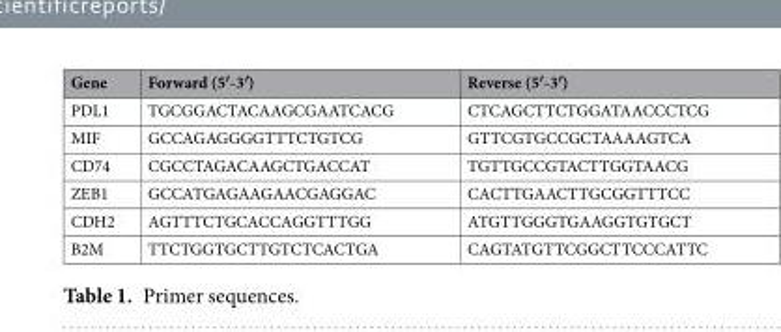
<table><thead><tr><td>Gene</td><td>Forward (5′-3′)</td><td>Reverse (5′-3′)</td></tr></thead><tbody><tr><td>PDL1</td><td>TGCGGACTACAAGCGAATCACG</td><td>CTCAGCTTCTGGATAACCCTCG</td></tr><tr><td>MIF</td><td>GCCAGAGGGGTTTCTGTCG</td><td>GTTCGTGCCGCTAAAAGTCA</td></tr><tr><td>CD74</td><td>CGCCTAGACAAGCTGACCAT</td><td>TGTTGCCGTACTTGGTAACG</td></tr><tr><td>ZEB1</td><td>GCCATGAGAAGAACGAGGAC</td><td>CACTTGAACTTGCGGTTTCC</td></tr><tr><td>CDH2</td><td>AGTTTCTGCACCAGGTTTGG</td><td>ATGTTGGGTGAAGGTGTGCT</td></tr><tr><td>B2M</td><td>TTCTGGTGCTTGTCTCACTGA</td><td>CAGTATGTTCGGCTTCCCATTC</td></tr></tbody></table>